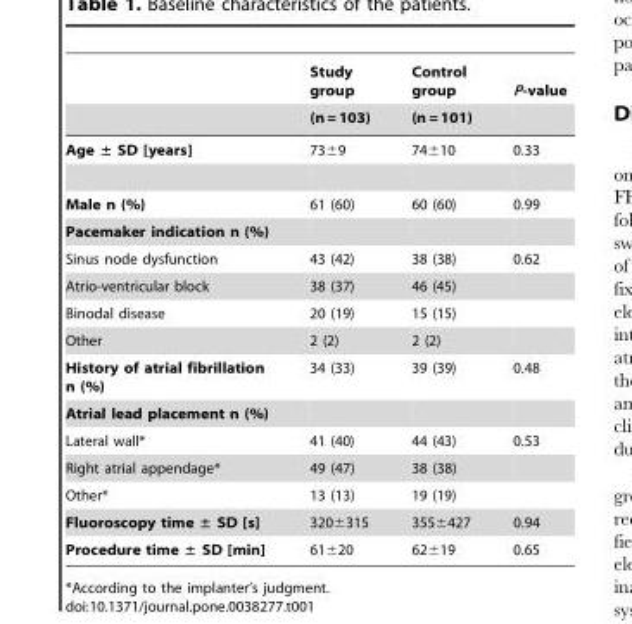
<table><thead><tr><td rowspan="2"></td><td rowspan="2">Study group (n = 103)</td><td rowspan="2">Control group (n = 101)</td><td rowspan="2">P-value</td></tr><tr></tr></thead><tbody><tr><td>Age ± SD [years]</td><td>73±9</td><td>74±10</td><td>0.33</td></tr><tr><td>Male n (%)</td><td>61 (60)</td><td>60 (60)</td><td>0.99</td></tr><tr><td colspan="4">Pacemaker indication n (%)</td></tr><tr><td>Sinus node dysfunction</td><td>43 (42)</td><td>38 (38)</td><td>0.62</td></tr><tr><td>Atrio-ventricular block</td><td>38 (37)</td><td>46 (45)</td><td></td></tr><tr><td>Binodal disease</td><td>20 (19)</td><td>15 (15)</td><td></td></tr><tr><td>Other</td><td>2 (2)</td><td>2 (2)</td><td></td></tr><tr><td>History of atrial fibrillation n (%)</td><td>34 (33)</td><td>39 (39)</td><td>0.48</td></tr><tr><td colspan="4">Atrial lead placement n (%)</td></tr><tr><td>Lateral wall*</td><td>41 (40)</td><td>44 (43)</td><td>0.53</td></tr><tr><td>Right atrial appendage*</td><td>49 (47)</td><td>38 (38)</td><td></td></tr><tr><td>Other*</td><td>13 (13)</td><td>19 (19)</td><td></td></tr><tr><td>Fluoroscopy time ± SD [s]</td><td>320±315</td><td>355±427</td><td>0.94</td></tr><tr><td>Procedure time ± SD [min]</td><td>61±20</td><td>62±19</td><td>0.65</td></tr></tbody></table>